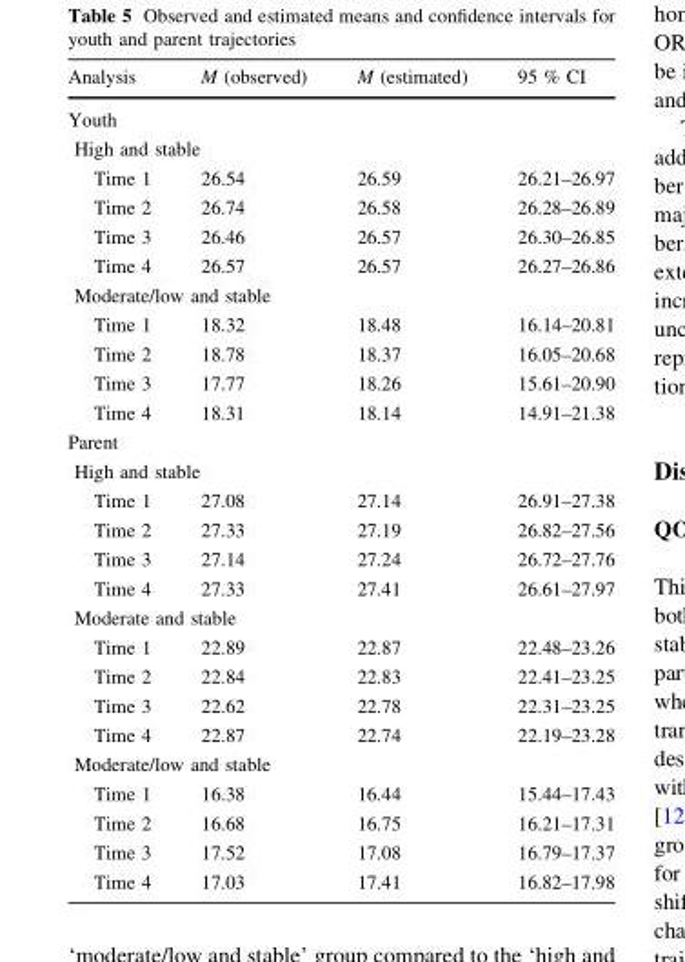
<table><thead><tr><td>Analysis</td><td>M (observed)</td><td>M (estimated)</td><td>95 % CI</td></tr></thead><tbody><tr><td colspan="4">Youth</td></tr><tr><td colspan="4">High and stable</td></tr><tr><td>Time 1</td><td>26.54</td><td>26.59</td><td>26.21–26.97</td></tr><tr><td>Time 2</td><td>26.74</td><td>26.58</td><td>26.28–26.89</td></tr><tr><td>Time 3</td><td>26.46</td><td>26.57</td><td>26.30–26.85</td></tr><tr><td>Time 4</td><td>26.57</td><td>26.57</td><td>26.27–26.86</td></tr><tr><td colspan="4">Moderate/low and stable</td></tr><tr><td>Time 1</td><td>18.32</td><td>18.48</td><td>16.14–20.81</td></tr><tr><td>Time 2</td><td>18.78</td><td>18.37</td><td>16.05–20.68</td></tr><tr><td>Time 3</td><td>17.77</td><td>18.26</td><td>15.61–20.90</td></tr><tr><td>Time 4</td><td>18.31</td><td>18.14</td><td>14.91–21.38</td></tr><tr><td colspan="4">Parent</td></tr><tr><td colspan="4">High and stable</td></tr><tr><td>Time 1</td><td>27.08</td><td>27.14</td><td>26.91–27.38</td></tr><tr><td>Time 2</td><td>27.33</td><td>27.19</td><td>26.82–27.56</td></tr><tr><td>Time 3</td><td>27.14</td><td>27.24</td><td>26.72–27.76</td></tr><tr><td>Time 4</td><td>27.33</td><td>27.41</td><td>26.61–27.97</td></tr><tr><td colspan="4">Moderate and stable</td></tr><tr><td>Time 1</td><td>22.89</td><td>22.87</td><td>22.48–23.26</td></tr><tr><td>Time 2</td><td>22.84</td><td>22.83</td><td>22.41–23.25</td></tr><tr><td>Time 3</td><td>22.62</td><td>22.78</td><td>22.31–23.25</td></tr><tr><td>Time 4</td><td>22.87</td><td>22.74</td><td>22.19–23.28</td></tr><tr><td colspan="4">Moderate/low and stable</td></tr><tr><td>Time 1</td><td>16.38</td><td>16.44</td><td>15.44–17.43</td></tr><tr><td>Time 2</td><td>16.68</td><td>16.75</td><td>16.21–17.31</td></tr><tr><td>Time 3</td><td>17.52</td><td>17.08</td><td>16.79–17.37</td></tr><tr><td>Time 4</td><td>17.03</td><td>17.41</td><td>16.82–17.98</td></tr></tbody></table>